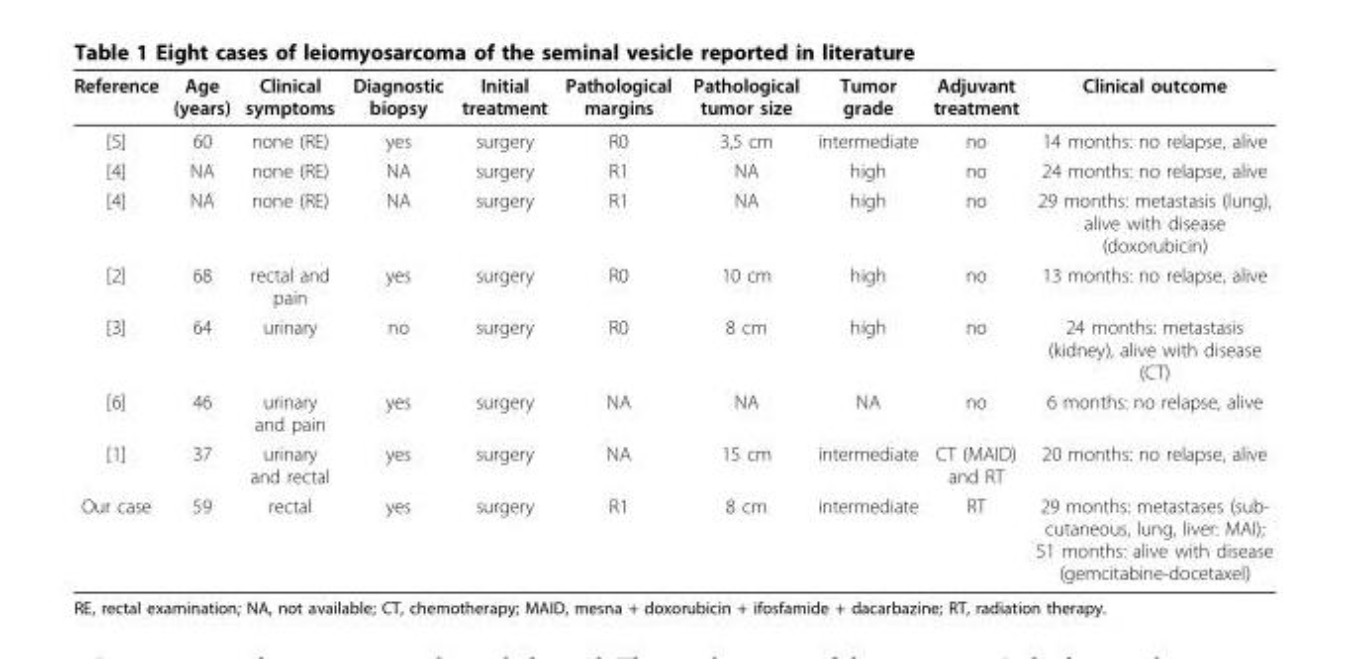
<table><thead><tr><td>Reference</td><td>Age (years)</td><td>Clinical symptoms</td><td>Diagnostic biopsy</td><td>Initial treatment</td><td>Pathological margins</td><td>Pathological tumor size</td><td>Tumor grade</td><td>Adjuvant treatment</td><td>Clinical outcome</td></tr></thead><tbody><tr><td>[5]</td><td>60</td><td>none (RE)</td><td>yes</td><td>surgery</td><td>R0</td><td>3,5 cm</td><td>intermediate</td><td>no</td><td>14 months: no relapse, alive</td></tr><tr><td>[4]</td><td>NA</td><td>none (RE)</td><td>NA</td><td>surgery</td><td>R1</td><td>NA</td><td>high</td><td>no</td><td>24 months: no relapse, alive</td></tr><tr><td>[4]</td><td>NA</td><td>none (RE)</td><td>NA</td><td>surgery</td><td>R1</td><td>NA</td><td>high</td><td>no</td><td>29 months: metastasis (lung), alive with disease (doxorubicin)</td></tr><tr><td>[2]</td><td>68</td><td>rectal and pain</td><td>yes</td><td>surgery</td><td>R0</td><td>10 cm</td><td>high</td><td>no</td><td>13 months: no relapse, alive</td></tr><tr><td>[3]</td><td>64</td><td>urinary</td><td>no</td><td>surgery</td><td>R0</td><td>8 cm</td><td>high</td><td>no</td><td>24 months: metastasis (kidney), alive with disease (CT)</td></tr><tr><td>[6]</td><td>46</td><td>urinary and pain</td><td>yes</td><td>surgery</td><td>NA</td><td>NA</td><td>NA</td><td>no</td><td>6 months: no relapse, alive</td></tr><tr><td>[1]</td><td>37</td><td>urinary and rectal</td><td>yes</td><td>surgery</td><td>NA</td><td>15 cm</td><td>intermediate</td><td>CT (MAID) and RT</td><td>20 months: no relapse, alive</td></tr><tr><td>Our case</td><td>59</td><td>rectal</td><td>yes</td><td>surgery</td><td>R1</td><td>8 cm</td><td>intermediate</td><td>RT</td><td>29 months: metastases (sub- cutaneous, lung, liver: MAI); 51 months: alive with disease (gemcitabine-docetaxel)</td></tr></tbody></table>